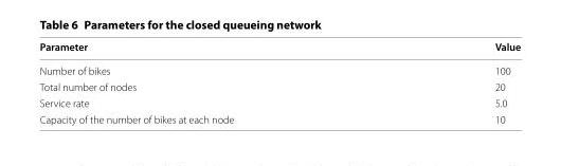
<table><thead><tr><td>Parameter</td><td>Value</td></tr></thead><tbody><tr><td>Number of bikes</td><td>100</td></tr><tr><td>Total number of nodes</td><td>20</td></tr><tr><td>Service rate</td><td>5.0</td></tr><tr><td>Capacity of the number of bikes at each node</td><td>10</td></tr></tbody></table>